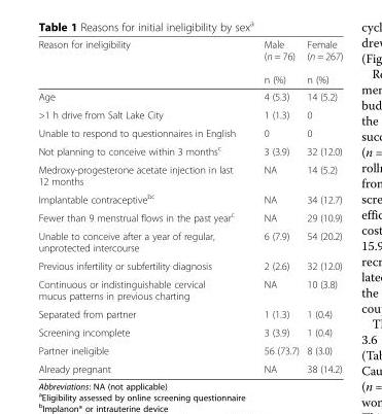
<table><thead><tr><td>Reason for ineligibility</td><td>Male (n = 76) n (%)</td><td>Female (n = 267) n (%)</td></tr></thead><tbody><tr><td>Age</td><td>4 (5.3)</td><td>14 (5.2)</td></tr><tr><td>&gt;1 h drive from Salt Lake City</td><td>1 (1.3)</td><td>0</td></tr><tr><td>Unable to respond to questionnaires in English</td><td>0</td><td>0</td></tr><tr><td>Not planning to conceive within 3 months<sup>c</sup></td><td>3 (3.9)</td><td>32 (12.0)</td></tr><tr><td>Medroxy-progesterone acetate injection in last 12 months</td><td>NA</td><td>14 (5.2)</td></tr><tr><td>Implantable contraceptive<sup>bc</sup></td><td>NA</td><td>34 (12.7)</td></tr><tr><td>Fewer than 9 menstrual flows in the past year<sup>c</sup></td><td>NA</td><td>29 (10.9)</td></tr><tr><td>Unable to conceive after a year of regular, unprotected intercourse</td><td>6 (7.9)</td><td>54 (20.2)</td></tr><tr><td>Previous infertility or subfertility diagnosis</td><td>2 (2.6)</td><td>32 (12.0)</td></tr><tr><td>Continuous or indistinguishable cervical mucus patterns in previous charting</td><td>NA</td><td>10 (3.8)</td></tr><tr><td>Separated from partner</td><td>1 (1.3)</td><td>1 (0.4)</td></tr><tr><td>Screening incomplete</td><td>3 (3.9)</td><td>1 (0.4)</td></tr><tr><td>Partner ineligible</td><td>56 (73.7)</td><td>8 (3.0)</td></tr><tr><td>Already pregnant</td><td>NA</td><td>38 (14.2)</td></tr></tbody></table>